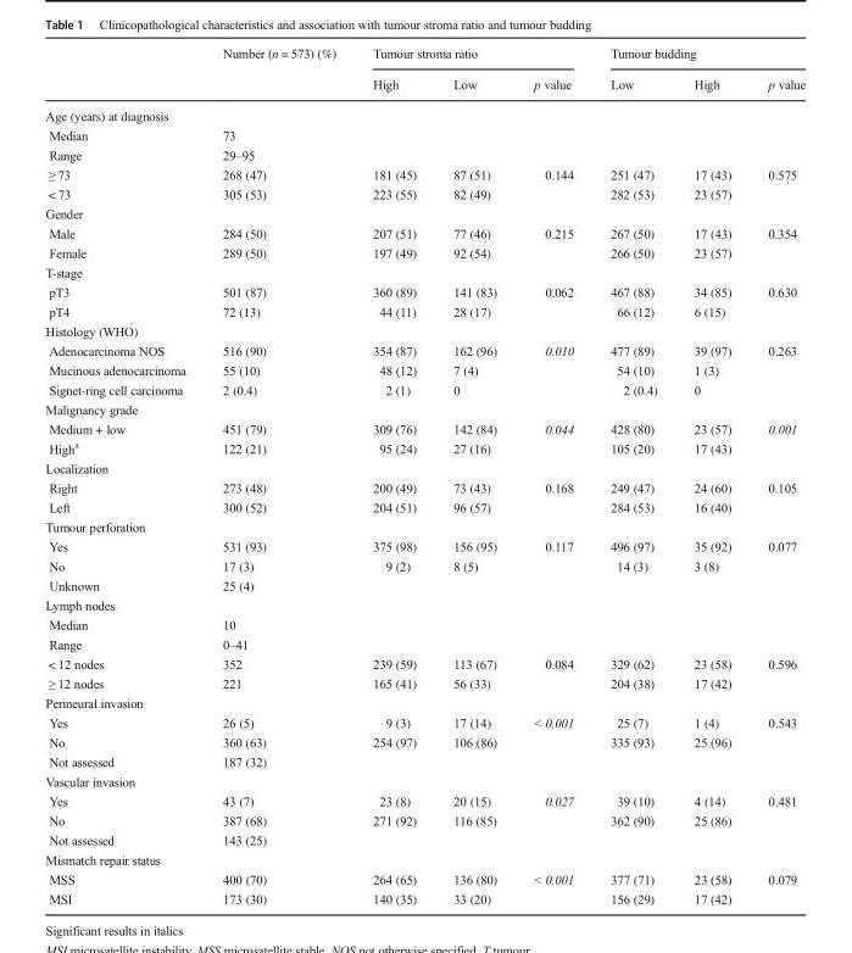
<table><thead><tr><td rowspan="2"></td><td rowspan="2">Number (n = 573) (%)</td><td colspan="3">Tumour stroma ratio</td><td colspan="3">Tumour budding</td></tr><tr><td>High</td><td>Low</td><td>p value</td><td>Low</td><td>High</td><td>p value</td></tr></thead><tbody><tr><td colspan="8">Age (years) at diagnosis</td></tr><tr><td>Median</td><td>73</td><td></td><td></td><td></td><td></td><td></td><td></td></tr><tr><td>Range</td><td>29–95</td><td></td><td></td><td></td><td></td><td></td><td></td></tr><tr><td>≥ 73</td><td>268 (47)</td><td>181 (45)</td><td>87 (51)</td><td>0.144</td><td>251 (47)</td><td>17 (43)</td><td>0.575</td></tr><tr><td>&lt; 73</td><td>305 (53)</td><td>223 (55)</td><td>82 (49)</td><td></td><td>282 (53)</td><td>23 (57)</td><td></td></tr><tr><td colspan="8">Gender</td></tr><tr><td>Male</td><td>284 (50)</td><td>207 (51)</td><td>77 (46)</td><td>0.215</td><td>267 (50)</td><td>17 (43)</td><td>0.354</td></tr><tr><td>Female</td><td>289 (50)</td><td>197 (49)</td><td>92 (54)</td><td></td><td>266 (50)</td><td>23 (57)</td><td></td></tr><tr><td colspan="8">T-stage</td></tr><tr><td>pT3</td><td>501 (87)</td><td>360 (89)</td><td>141 (83)</td><td>0.062</td><td>467 (88)</td><td>34 (85)</td><td>0.630</td></tr><tr><td>pT4</td><td>72 (13)</td><td>44 (11)</td><td>28 (17)</td><td></td><td>66 (12)</td><td>6 (15)</td><td></td></tr><tr><td colspan="8">Histology (WHO)</td></tr><tr><td>Adenocarcinoma NOS</td><td>516 (90)</td><td>354 (87)</td><td>162 (96)</td><td>0.010</td><td>477 (89)</td><td>39 (97)</td><td>0.263</td></tr><tr><td>Mucinous adenocarcinoma</td><td>55 (10)</td><td>48 (12)</td><td>7 (4)</td><td></td><td>54 (10)</td><td>1 (3)</td><td></td></tr><tr><td>Signet-ring cell carcinoma</td><td>2 (0.4)</td><td>2 (1)</td><td>0</td><td></td><td>2 (0.4)</td><td>0</td><td></td></tr><tr><td colspan="8">Malignancy grade</td></tr><tr><td>Medium + low</td><td>451 (79)</td><td>309 (76)</td><td>142 (84)</td><td>0.044</td><td>428 (80)</td><td>23 (57)</td><td>0.001</td></tr><tr><td>High<sup>a</sup></td><td>122 (21)</td><td>95 (24)</td><td>27 (16)</td><td></td><td>105 (20)</td><td>17 (43)</td><td></td></tr><tr><td colspan="8">Localization</td></tr><tr><td>Right</td><td>273 (48)</td><td>200 (49)</td><td>73 (43)</td><td>0.168</td><td>249 (47)</td><td>24 (60)</td><td>0.105</td></tr><tr><td>Left</td><td>300 (52)</td><td>204 (51)</td><td>96 (57)</td><td></td><td>284 (53)</td><td>16 (40)</td><td></td></tr><tr><td colspan="8">Tumour perforation</td></tr><tr><td>Yes</td><td>531 (93)</td><td>375 (98)</td><td>156 (95)</td><td>0.117</td><td>496 (97)</td><td>35 (92)</td><td>0.077</td></tr><tr><td>No</td><td>17 (3)</td><td>9 (2)</td><td>8 (5)</td><td></td><td>14 (3)</td><td>3 (8)</td><td></td></tr><tr><td>Unknown</td><td>25 (4)</td><td></td><td></td><td></td><td></td><td></td><td></td></tr><tr><td colspan="8">Lymph nodes</td></tr><tr><td>Median</td><td>10</td><td></td><td></td><td></td><td></td><td></td><td></td></tr><tr><td>Range</td><td>0–41</td><td></td><td></td><td></td><td></td><td></td><td></td></tr><tr><td>&lt; 12 nodes</td><td>352</td><td>239 (59)</td><td>113 (67)</td><td>0.084</td><td>329 (62)</td><td>23 (58)</td><td>0.596</td></tr><tr><td>≥ 12 nodes</td><td>221</td><td>165 (41)</td><td>56 (33)</td><td></td><td>204 (38)</td><td>17 (42)</td><td></td></tr><tr><td colspan="8">Perineural invasion</td></tr><tr><td>Yes</td><td>26 (5)</td><td>9 (3)</td><td>17 (14)</td><td>&lt; 0.001</td><td>25 (7)</td><td>1 (4)</td><td>0.543</td></tr><tr><td>No</td><td>360 (63)</td><td>254 (97)</td><td>106 (86)</td><td></td><td>335 (93)</td><td>25 (96)</td><td></td></tr><tr><td>Not assessed</td><td>187 (32)</td><td></td><td></td><td></td><td></td><td></td><td></td></tr><tr><td colspan="8">Vascular invasion</td></tr><tr><td>Yes</td><td>43 (7)</td><td>23 (8)</td><td>20 (15)</td><td>0.027</td><td>39 (10)</td><td>4 (14)</td><td>0.481</td></tr><tr><td>No</td><td>387 (68)</td><td>271 (92)</td><td>116 (85)</td><td></td><td>362 (90)</td><td>25 (86)</td><td></td></tr><tr><td>Not assessed</td><td>143 (25)</td><td></td><td></td><td></td><td></td><td></td><td></td></tr><tr><td colspan="8">Mismatch repair status</td></tr><tr><td>MSS</td><td>400 (70)</td><td>264 (65)</td><td>136 (80)</td><td>&lt; 0.001</td><td>377 (71)</td><td>23 (58)</td><td>0.079</td></tr><tr><td>MSI</td><td>173 (30)</td><td>140 (35)</td><td>33 (20)</td><td></td><td>156 (29)</td><td>17 (42)</td><td></td></tr></tbody></table>